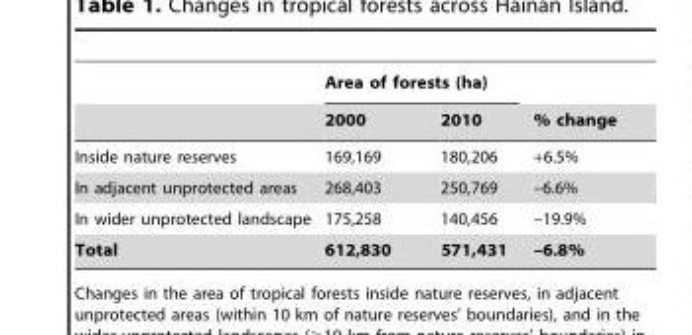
<table><thead><tr><td rowspan="2"></td><td colspan="2">Area of forests (ha)</td><td rowspan="2">% change</td></tr><tr><td>2000</td><td>2010</td></tr></thead><tbody><tr><td>Inside nature reserves</td><td>169,169</td><td>180,206</td><td>+6.5%</td></tr><tr><td>In adjacent unprotected areas</td><td>268,403</td><td>250,769</td><td>–6.6%</td></tr><tr><td>In wider unprotected landscape</td><td>175,258</td><td>140,456</td><td>–19.9%</td></tr><tr><td>Total</td><td>612,830</td><td>571,431</td><td>–6.8%</td></tr></tbody></table>